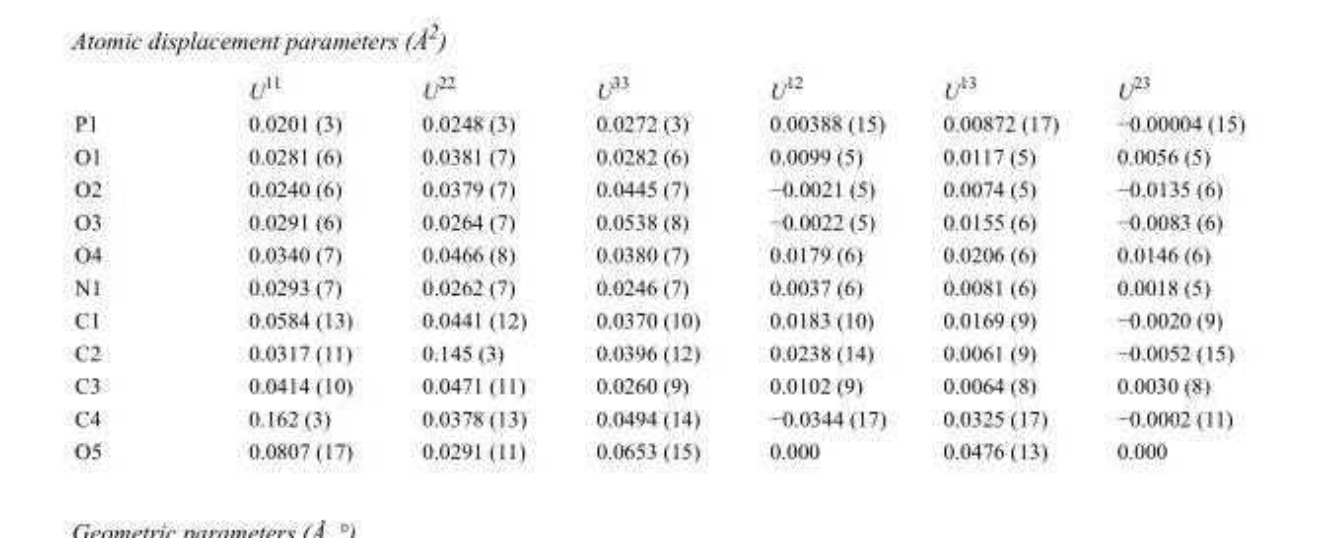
<table><thead><tr><td></td><td>U<sup>11</sup></td><td>U<sup>22</sup></td><td>U<sup>33</sup></td><td>U<sup>12</sup></td><td>U<sup>13</sup></td><td>U<sup>23</sup></td></tr></thead><tbody><tr><td>P1</td><td>0.0201 (3)</td><td>0.0248 (3)</td><td>0.0272 (3)</td><td>0.00388 (15)</td><td>0.00872 (17)</td><td>−0.00004 (15)</td></tr><tr><td>O1</td><td>0.0281 (6)</td><td>0.0381 (7)</td><td>0.0282 (6)</td><td>0.0099 (5)</td><td>0.0117 (5)</td><td>0.0056 (5)</td></tr><tr><td>O2</td><td>0.0240 (6)</td><td>0.0379 (7)</td><td>0.0445 (7)</td><td>−0.0021 (5)</td><td>0.0074 (5)</td><td>−0.0135 (6)</td></tr><tr><td>O3</td><td>0.0291 (6)</td><td>0.0264 (7)</td><td>0.0538 (8)</td><td>−0.0022 (5)</td><td>0.0155 (6)</td><td>−0.0083 (6)</td></tr><tr><td>O4</td><td>0.0340 (7)</td><td>0.0466 (8)</td><td>0.0380 (7)</td><td>0.0179 (6)</td><td>0.0206 (6)</td><td>0.0146 (6)</td></tr><tr><td>N1</td><td>0.0293 (7)</td><td>0.0262 (7)</td><td>0.0246 (7)</td><td>0.0037 (6)</td><td>0.0081 (6)</td><td>0.0018 (5)</td></tr><tr><td>C1</td><td>0.0584 (13)</td><td>0.0441 (12)</td><td>0.0370 (10)</td><td>0.0183 (10)</td><td>0.0169 (9)</td><td>−0.0020 (9)</td></tr><tr><td>C2</td><td>0.0317 (11)</td><td>0.145 (3)</td><td>0.0396 (12)</td><td>0.0238 (14)</td><td>0.0061 (9)</td><td>−0.0052 (15)</td></tr><tr><td>C3</td><td>0.0414 (10)</td><td>0.0471 (11)</td><td>0.0260 (9)</td><td>0.0102 (9)</td><td>0.0064 (8)</td><td>0.0030 (8)</td></tr><tr><td>C4</td><td>0.162 (3)</td><td>0.0378 (13)</td><td>0.0494 (14)</td><td>−0.0344 (17)</td><td>0.0325 (17)</td><td>−0.0002 (11)</td></tr><tr><td>O5</td><td>0.0807 (17)</td><td>0.0291 (11)</td><td>0.0653 (15)</td><td>0.000</td><td>0.0476 (13)</td><td>0.000</td></tr></tbody></table>